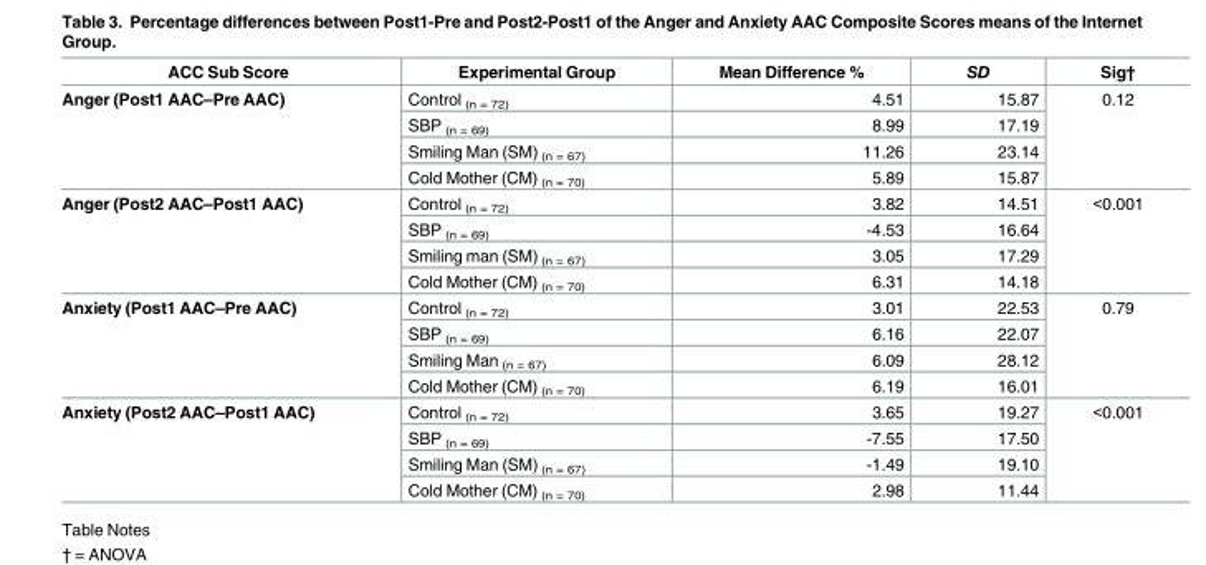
<table><thead><tr><td>ACC Sub Score</td><td>Experimental Group</td><td>Mean Difference %</td><td>SD</td><td>Sig†</td></tr></thead><tbody><tr><td rowspan="4">Anger (Post1 AAC–Pre AAC)</td><td>Control <sub>(n = 72)</sub></td><td>4.51</td><td>15.87</td><td rowspan="4">0.12</td></tr><tr><td>SBP <sub>(n = 69)</sub></td><td>8.99</td><td>17.19</td></tr><tr><td>Smiling Man (SM) <sub>(n = 67)</sub></td><td>11.26</td><td>23.14</td></tr><tr><td>Cold Mother (CM) <sub>(n = 70)</sub></td><td>5.89</td><td>15.87</td></tr><tr><td rowspan="4">Anger (Post2 AAC–Post1 AAC)</td><td>Control <sub>(n = 72)</sub></td><td>3.82</td><td>14.51</td><td rowspan="4">&lt;0.001</td></tr><tr><td>SBP <sub>(n = 69)</sub></td><td>-4.53</td><td>16.64</td></tr><tr><td>Smiling man (SM) <sub>(n = 67)</sub></td><td>3.05</td><td>17.29</td></tr><tr><td>Cold Mother (CM) <sub>(n = 70)</sub></td><td>6.31</td><td>14.18</td></tr><tr><td rowspan="4">Anxiety (Post1 AAC–Pre AAC)</td><td>Control <sub>(n = 72)</sub></td><td>3.01</td><td>22.53</td><td rowspan="4">0.79</td></tr><tr><td>SBP <sub>(n = 69)</sub></td><td>6.16</td><td>22.07</td></tr><tr><td>Smiling Man <sub>(n = 67)</sub></td><td>6.09</td><td>28.12</td></tr><tr><td>Cold Mother (CM) <sub>(n = 70)</sub></td><td>6.19</td><td>16.01</td></tr><tr><td rowspan="4">Anxiety (Post2 AAC–Post1 AAC)</td><td>Control <sub>(n = 72)</sub></td><td>3.65</td><td>19.27</td><td rowspan="4">&lt;0.001</td></tr><tr><td>SBP <sub>(n = 69)</sub></td><td>-7.55</td><td>17.50</td></tr><tr><td>Smiling Man (SM) <sub>(n = 67)</sub></td><td>-1.49</td><td>19.10</td></tr><tr><td>Cold Mother (CM) <sub>(n = 70)</sub></td><td>2.98</td><td>11.44</td></tr></tbody></table>